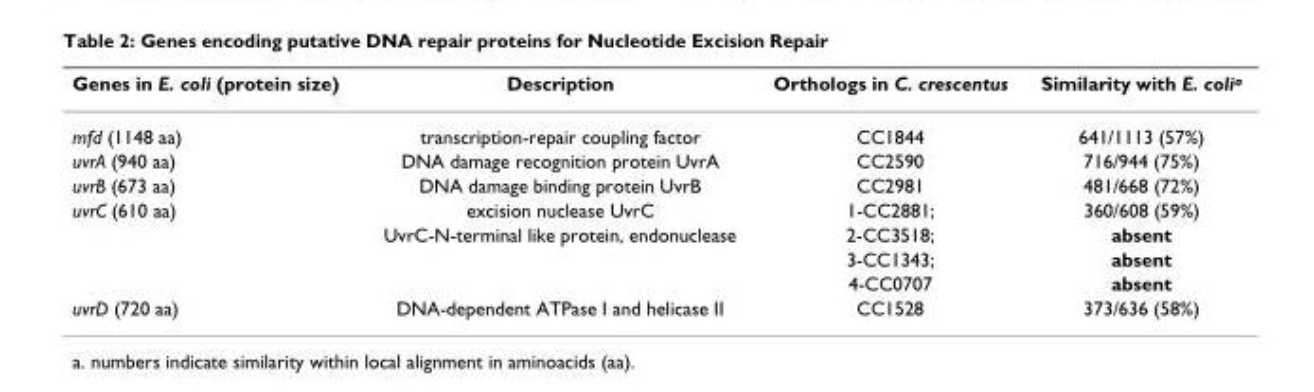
<table><thead><tr><td>Genes in E. coli (protein size)</td><td>Description</td><td>Orthologs in C. crescentus</td><td>Similarity with E. colia</td></tr></thead><tbody><tr><td>mfd (1148 aa)</td><td>transcription-repair coupling factor</td><td>CC1844</td><td>641/1113 (57%)</td></tr><tr><td>uvrA (940 aa)</td><td>DNA damage recognition protein UvrA</td><td>CC2590</td><td>716/944 (75%)</td></tr><tr><td>uvrB (673 aa)</td><td>DNA damage binding protein UvrB</td><td>CC2981</td><td>481/668 (72%)</td></tr><tr><td rowspan="4">uvrC (610 aa)</td><td>excision nuclease UvrC</td><td>1-CC2881;</td><td>360/608 (59%)</td></tr><tr><td>UvrC-N-terminal like protein, endonuclease</td><td>2-CC3518;</td><td>absent</td></tr><tr><td></td><td>3-CC1343;</td><td>absent</td></tr><tr><td></td><td>4-CC0707</td><td>absent</td></tr><tr><td>uvrD (720 aa)</td><td>DNA-dependent ATPase I and helicase II</td><td>CC1528</td><td>373/636 (58%)</td></tr></tbody></table>